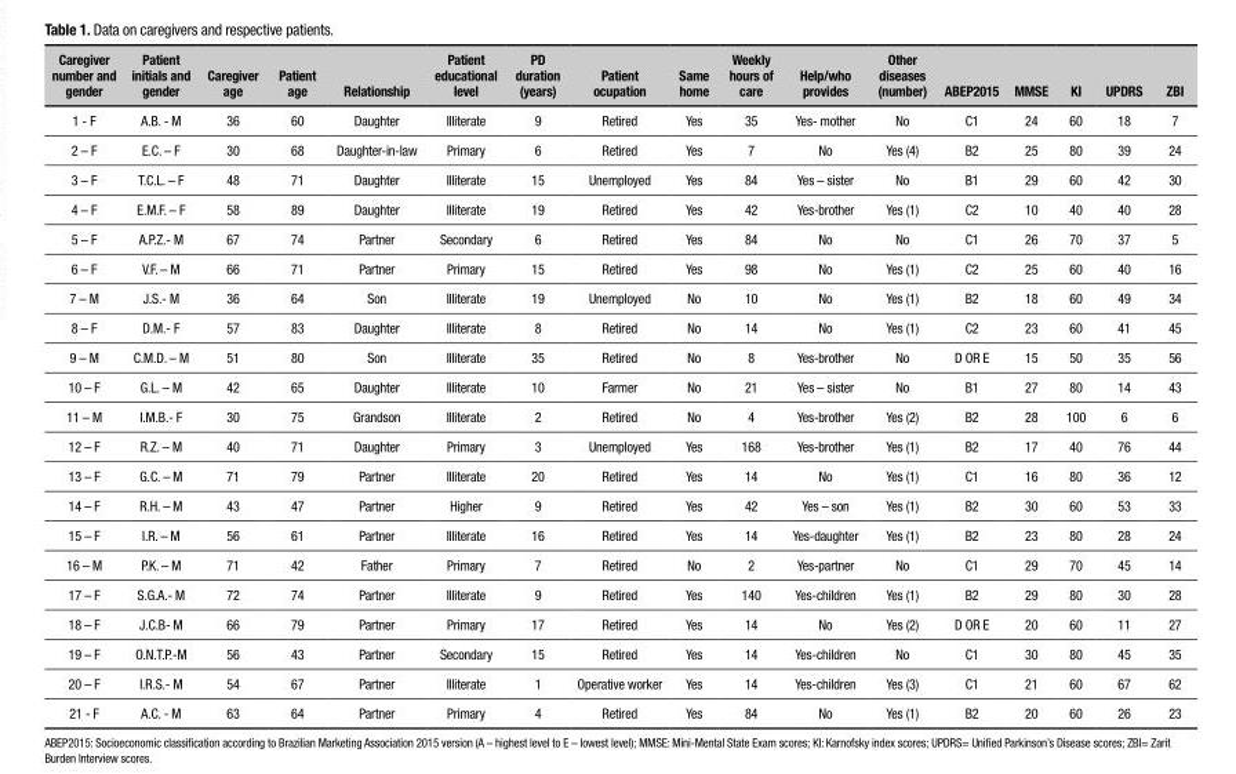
<table><thead><tr><td>Caregiver number and gender</td><td>Patient initials and gender</td><td>Caregiver age</td><td>Patient age</td><td>Relationship</td><td>Patient educational level</td><td>PD duration (years)</td><td>Patient ocupation</td><td>Same home</td><td>Weekly hours of care</td><td>Help/who provides</td><td>Other diseases (number)</td><td>ABEP2015</td><td>MMSE</td><td>KI</td><td>UPDRS</td><td>ZBI</td></tr></thead><tbody><tr><td>1 - F</td><td>A.B. - M</td><td>36</td><td>60</td><td>Daughter</td><td>Illiterate</td><td>9</td><td>Retired</td><td>Yes</td><td>35</td><td>Yes- mother</td><td>No</td><td>C1</td><td>24</td><td>60</td><td>18</td><td>7</td></tr><tr><td>2 – F</td><td>E.C. – F</td><td>30</td><td>68</td><td>Daughter-in-law</td><td>Primary</td><td>6</td><td>Retired</td><td>Yes</td><td>7</td><td>No</td><td>Yes (4)</td><td>B2</td><td>25</td><td>80</td><td>39</td><td>24</td></tr><tr><td>3 – F</td><td>T.C.L. – F</td><td>48</td><td>71</td><td>Daughter</td><td>Illiterate</td><td>15</td><td>Unemployed</td><td>Yes</td><td>84</td><td>Yes – sister</td><td>No</td><td>B1</td><td>29</td><td>60</td><td>42</td><td>30</td></tr><tr><td>4 – F</td><td>E.M.F. – F</td><td>58</td><td>89</td><td>Daughter</td><td>Illiterate</td><td>19</td><td>Retired</td><td>Yes</td><td>42</td><td>Yes-brother</td><td>Yes (1)</td><td>C2</td><td>10</td><td>40</td><td>40</td><td>28</td></tr><tr><td>5 – F</td><td>A.P.Z.- M</td><td>67</td><td>74</td><td>Partner</td><td>Secondary</td><td>6</td><td>Retired</td><td>Yes</td><td>84</td><td>No</td><td>No</td><td>C1</td><td>26</td><td>70</td><td>37</td><td>5</td></tr><tr><td>6 – F</td><td>V.F. – M</td><td>66</td><td>71</td><td>Partner</td><td>Primary</td><td>15</td><td>Retired</td><td>Yes</td><td>98</td><td>No</td><td>Yes (1)</td><td>C2</td><td>25</td><td>60</td><td>40</td><td>16</td></tr><tr><td>7 – M</td><td>J.S.- M</td><td>36</td><td>64</td><td>Son</td><td>Illiterate</td><td>19</td><td>Unemployed</td><td>No</td><td>10</td><td>No</td><td>Yes (1)</td><td>B2</td><td>18</td><td>60</td><td>49</td><td>34</td></tr><tr><td>8 – F</td><td>D.M.- F</td><td>57</td><td>83</td><td>Daughter</td><td>Illiterate</td><td>8</td><td>Retired</td><td>No</td><td>14</td><td>No</td><td>Yes (1)</td><td>C2</td><td>23</td><td>60</td><td>41</td><td>45</td></tr><tr><td>9 – M</td><td>C.M.D. – M</td><td>51</td><td>80</td><td>Son</td><td>Illiterate</td><td>35</td><td>Retired</td><td>No</td><td>8</td><td>Yes-brother</td><td>No</td><td>D OR E</td><td>15</td><td>50</td><td>35</td><td>56</td></tr><tr><td>10 – F</td><td>G.L. – M</td><td>42</td><td>65</td><td>Daughter</td><td>Illiterate</td><td>10</td><td>Farmer</td><td>No</td><td>21</td><td>Yes – sister</td><td>No</td><td>B1</td><td>27</td><td>80</td><td>14</td><td>43</td></tr><tr><td>11 – M</td><td>I.M.B.- F</td><td>30</td><td>75</td><td>Grandson</td><td>Illiterate</td><td>2</td><td>Retired</td><td>No</td><td>4</td><td>Yes-brother</td><td>Yes (2)</td><td>B2</td><td>28</td><td>100</td><td>6</td><td>6</td></tr><tr><td>12 – F</td><td>R.Z. – M</td><td>40</td><td>71</td><td>Daughter</td><td>Primary</td><td>3</td><td>Unemployed</td><td>Yes</td><td>168</td><td>Yes-brother</td><td>Yes (1)</td><td>B2</td><td>17</td><td>40</td><td>76</td><td>44</td></tr><tr><td>13 – F</td><td>G.C. – M</td><td>71</td><td>79</td><td>Partner</td><td>Illiterate</td><td>20</td><td>Retired</td><td>Yes</td><td>14</td><td>No</td><td>Yes (1)</td><td>C1</td><td>16</td><td>80</td><td>36</td><td>12</td></tr><tr><td>14 – F</td><td>R.H. – M</td><td>43</td><td>47</td><td>Partner</td><td>Higher</td><td>9</td><td>Retired</td><td>Yes</td><td>42</td><td>Yes – son</td><td>Yes (1)</td><td>B2</td><td>30</td><td>60</td><td>53</td><td>33</td></tr><tr><td>15 – F</td><td>I.R. – M</td><td>56</td><td>61</td><td>Partner</td><td>Illiterate</td><td>16</td><td>Retired</td><td>Yes</td><td>14</td><td>Yes-daughter</td><td>Yes (1)</td><td>B2</td><td>23</td><td>80</td><td>28</td><td>24</td></tr><tr><td>16 – M</td><td>P.K. – M</td><td>71</td><td>42</td><td>Father</td><td>Primary</td><td>7</td><td>Retired</td><td>No</td><td>2</td><td>Yes-partner</td><td>No</td><td>C1</td><td>29</td><td>70</td><td>45</td><td>14</td></tr><tr><td>17 – F</td><td>S.G.A.- M</td><td>72</td><td>74</td><td>Partner</td><td>Illiterate</td><td>9</td><td>Retired</td><td>Yes</td><td>140</td><td>Yes-children</td><td>Yes (1)</td><td>B2</td><td>29</td><td>80</td><td>30</td><td>28</td></tr><tr><td>18 – F</td><td>J.C.B- M</td><td>66</td><td>79</td><td>Partner</td><td>Primary</td><td>17</td><td>Retired</td><td>Yes</td><td>14</td><td>No</td><td>Yes (2)</td><td>D OR E</td><td>20</td><td>60</td><td>11</td><td>27</td></tr><tr><td>19 – F</td><td>O.N.T.P.-M</td><td>56</td><td>43</td><td>Partner</td><td>Secondary</td><td>15</td><td>Retired</td><td>Yes</td><td>14</td><td>Yes-children</td><td>No</td><td>C1</td><td>30</td><td>80</td><td>45</td><td>35</td></tr><tr><td>20 – F</td><td>I.R.S.- M</td><td>54</td><td>67</td><td>Partner</td><td>Illiterate</td><td>1</td><td>Operative worker</td><td>Yes</td><td>14</td><td>Yes-children</td><td>Yes (3)</td><td>C1</td><td>21</td><td>60</td><td>67</td><td>62</td></tr><tr><td>21 - F</td><td>A.C. - M</td><td>63</td><td>64</td><td>Partner</td><td>Primary</td><td>4</td><td>Retired</td><td>Yes</td><td>84</td><td>No</td><td>Yes (1)</td><td>B2</td><td>20</td><td>60</td><td>26</td><td>23</td></tr></tbody></table>